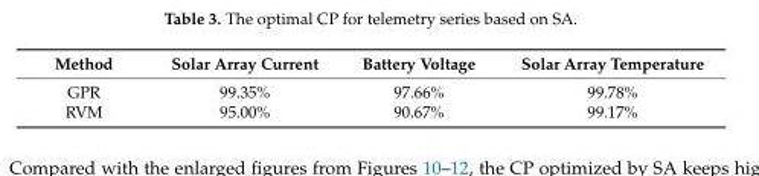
<table><thead><tr><td>Method</td><td>Solar Array Current</td><td>Battery Voltage</td><td>Solar Array Temperature</td></tr></thead><tbody><tr><td>GPR</td><td>99.35%</td><td>97.66%</td><td>99.78%</td></tr><tr><td>RVM</td><td>95.00%</td><td>90.67%</td><td>99.17%</td></tr></tbody></table>